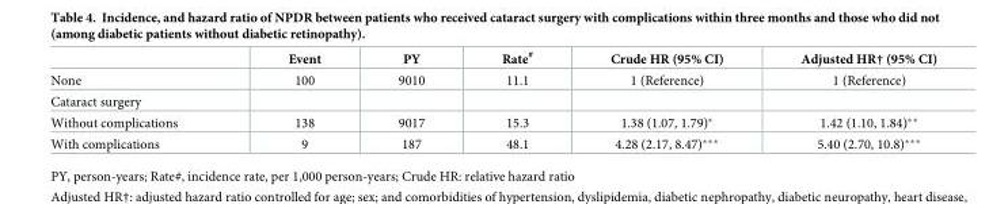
<table><thead><tr><td></td><td>Event</td><td>PY</td><td>Rate<sup>#</sup></td><td>Crude HR (95% CI)</td><td>Adjusted HR† (95% CI)</td></tr></thead><tbody><tr><td>None</td><td>100</td><td>9010</td><td>11.1</td><td>1 (Reference)</td><td>1 (Reference)</td></tr><tr><td colspan="6">Cataract surgery</td></tr><tr><td>Without complications</td><td>138</td><td>9017</td><td>15.3</td><td>1.38 (1.07, 1.79)*</td><td>1.42 (1.10, 1.84)**</td></tr><tr><td>With complications</td><td>9</td><td>187</td><td>48.1</td><td>4.28 (2.17, 8.47)***</td><td>5.40 (2.70, 10.8)***</td></tr></tbody></table>